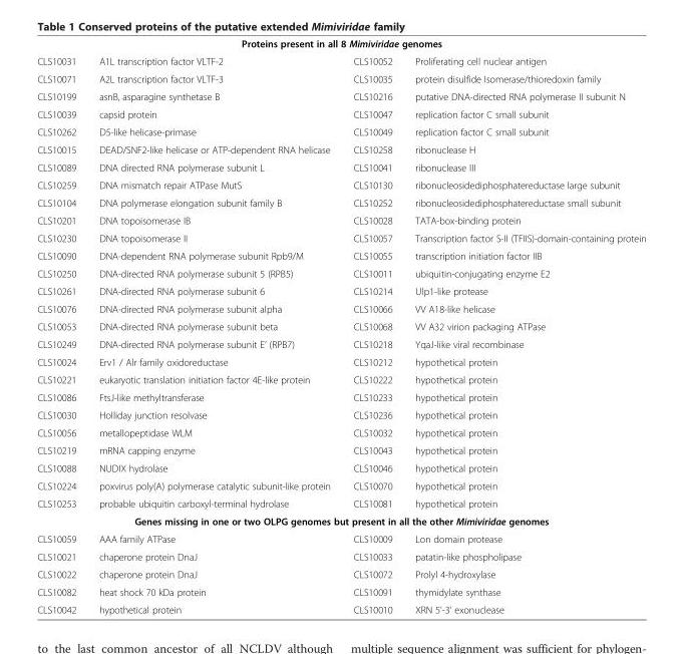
<table><tbody><tr><td colspan="4">Proteins present in all 8 Mimiviridae genomes</td></tr><tr><td>CLS10031</td><td>A1L transcription factor VLTF-2</td><td>CLS10052</td><td>Proliferating cell nuclear antigen</td></tr><tr><td>CLS10071</td><td>A2L transcription factor VLTF-3</td><td>CLS10035</td><td>protein disulfide Isomerase/thioredoxin family</td></tr><tr><td>CLS10199</td><td>asnB, asparagine synthetase B</td><td>CLS10216</td><td>putative DNA-directed RNA polymerase II subunit N</td></tr><tr><td>CLS10039</td><td>capsid protein</td><td>CLS10047</td><td>replication factor C small subunit</td></tr><tr><td>CLS10262</td><td>D5-like helicase-primase</td><td>CLS10049</td><td>replication factor C small subunit</td></tr><tr><td>CLS10015</td><td>DEAD/SNF2-like helicase or ATP-dependent RNA helicase</td><td>CLS10258</td><td>ribonuclease H</td></tr><tr><td>CLS10089</td><td>DNA directed RNA polymerase subunit L</td><td>CLS10041</td><td>ribonuclease III</td></tr><tr><td>CLS10259</td><td>DNA mismatch repair ATPase MutS</td><td>CLS10130</td><td>ribonucleosidediphosphatereductase large subunit</td></tr><tr><td>CLS10104</td><td>DNA polymerase elongation subunit family B</td><td>CLS10252</td><td>ribonucleosidediphosphatereductase small subunit</td></tr><tr><td>CLS10201</td><td>DNA topoisomerase IB</td><td>CLS10028</td><td>TATA-box-binding protein</td></tr><tr><td>CLS10230</td><td>DNA topoisomerase II</td><td>CLS10057</td><td>Transcription factor S-II (TFIIS)-domain-containing protein</td></tr><tr><td>CLS10090</td><td>DNA-dependent RNA polymerase subunit Rpb9/M</td><td>CLS10055</td><td>transcription initiation factor IIB</td></tr><tr><td>CLS10250</td><td>DNA-directed RNA polymerase subunit 5 (RPB5)</td><td>CLS10011</td><td>ubiquitin-conjugating enzyme E2</td></tr><tr><td>CLS10261</td><td>DNA-directed RNA polymerase subunit 6</td><td>CLS10214</td><td>Ulp1-like protease</td></tr><tr><td>CLS10076</td><td>DNA-directed RNA polymerase subunit alpha</td><td>CLS10066</td><td>VV A18-like helicase</td></tr><tr><td>CLS10053</td><td>DNA-directed RNA polymerase subunit beta</td><td>CLS10068</td><td>VV A32 virion packaging ATPase</td></tr><tr><td>CLS10249</td><td>DNA-directed RNA polymerase subunit E’ (RPB7)</td><td>CLS10218</td><td>YqaJ-like viral recombinase</td></tr><tr><td>CLS10024</td><td>Erv1 / Alr family oxidoreductase</td><td>CLS10212</td><td>hypothetical protein</td></tr><tr><td>CLS10221</td><td>eukaryotic translation initiation factor 4E-like protein</td><td>CLS10222</td><td>hypothetical protein</td></tr><tr><td>CLS10086</td><td>FtsJ-like methyltransferase</td><td>CLS10233</td><td>hypothetical protein</td></tr><tr><td>CLS10030</td><td>Holliday junction resolvase</td><td>CLS10236</td><td>hypothetical protein</td></tr><tr><td>CLS10056</td><td>metallopeptidase WLM</td><td>CLS10032</td><td>hypothetical protein</td></tr><tr><td>CLS10219</td><td>mRNA capping enzyme</td><td>CLS10043</td><td>hypothetical protein</td></tr><tr><td>CLS10088</td><td>NUDIX hydrolase</td><td>CLS10046</td><td>hypothetical protein</td></tr><tr><td>CLS10224</td><td>poxvirus poly(A) polymerase catalytic subunit-like protein</td><td>CLS10070</td><td>hypothetical protein</td></tr><tr><td>CLS10253</td><td>probable ubiquitin carboxyl-terminal hydrolase</td><td>CLS10081</td><td>hypothetical protein</td></tr><tr><td colspan="4">Genes missing in one or two OLPG genomes but present in all the other Mimiviridae genomes</td></tr><tr><td>CLS10059</td><td>AAA family ATPase</td><td>CLS10009</td><td>Lon domain protease</td></tr><tr><td>CLS10021</td><td>chaperone protein DnaJ</td><td>CLS10033</td><td>patatin-like phospholipase</td></tr><tr><td>CLS10022</td><td>chaperone protein DnaJ</td><td>CLS10072</td><td>Prolyl 4-hydroxylase</td></tr><tr><td>CLS10082</td><td>heat shock 70 kDa protein</td><td>CLS10091</td><td>thymidylate synthase</td></tr><tr><td>CLS10042</td><td>hypothetical protein</td><td>CLS10010</td><td>XRN 5&#x27;-3&#x27; exonuclease</td></tr></tbody></table>